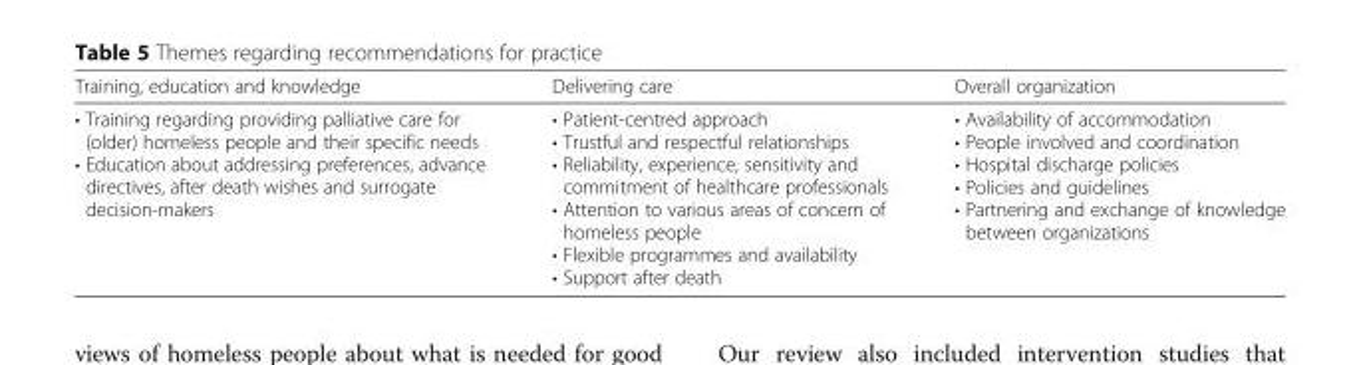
<table><thead><tr><td>Training, education and knowledge</td><td>Delivering care</td><td>Overall organization</td></tr></thead><tbody><tr><td>• Training regarding providing palliative care for (older) homeless people and their specific needs • Education about addressing preferences, advance directives, after death wishes and surrogate decision-makers</td><td>• Patient-centred approach • Trustful and respectful relationships • Reliability, experience, sensitivity and commitment of healthcare professionals • Attention to various areas of concern of homeless people • Flexible programmes and availability • Support after death</td><td>• Availability of accommodation • People involved and coordination • Hospital discharge policies • Policies and guidelines • Partnering and exchange of knowledge between organizations</td></tr></tbody></table>